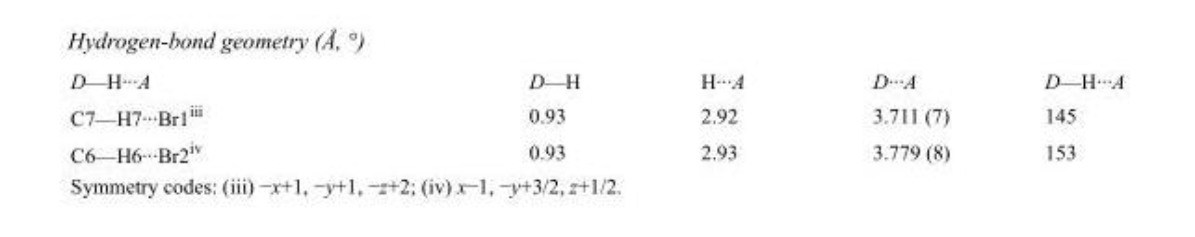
<table><tbody><tr><td>D—H···A</td><td>D—H</td><td>H···A</td><td>D···A</td><td>D—H···A</td></tr><tr><td>C7—H7···Br1<sup>iii</sup></td><td>0.93</td><td>2.92</td><td>3.711 (7)</td><td>145</td></tr><tr><td>C6—H6···Br2<sup>iv</sup></td><td>0.93</td><td>2.93</td><td>3.779 (8)</td><td>153</td></tr></tbody></table>